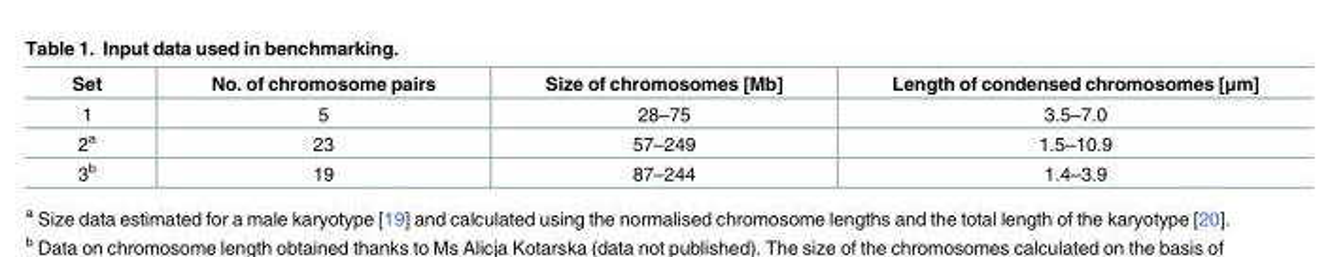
<table><thead><tr><td>Set</td><td>No. of chromosome pairs</td><td>Size of chromosomes [Mb]</td><td>Length of condensed chromosomes [μm]</td></tr></thead><tbody><tr><td>1</td><td>5</td><td>28–75</td><td>3.5–7.0</td></tr><tr><td>2<sup>a</sup></td><td>23</td><td>57–249</td><td>1.5–10.9</td></tr><tr><td>3<sup>b</sup></td><td>19</td><td>87–244</td><td>1.4–3.9</td></tr></tbody></table>